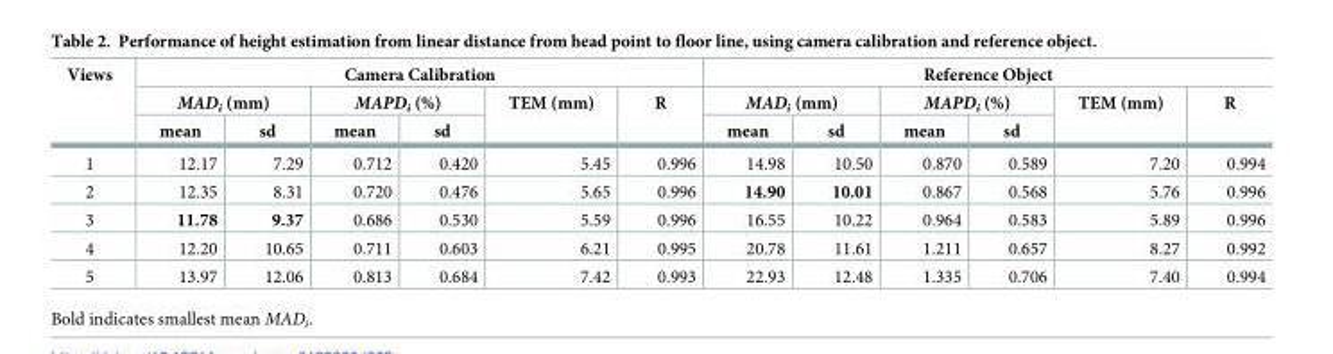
<table><thead><tr><td rowspan="3">Views</td><td colspan="6">Camera Calibration</td><td colspan="6">Reference Object</td></tr><tr><td colspan="2">MAD<sub>i</sub> (mm)</td><td colspan="2">MAPD<sub>i</sub> (%)</td><td rowspan="2">TEM (mm)</td><td rowspan="2">R</td><td colspan="2">MAD<sub>i</sub> (mm)</td><td colspan="2">MAPD<sub>i</sub> (%)</td><td rowspan="2">TEM (mm)</td><td rowspan="2">R</td></tr><tr><td>mean</td><td>sd</td><td>mean</td><td>sd</td><td>mean</td><td>sd</td><td>mean</td><td>sd</td></tr></thead><tbody><tr><td>1</td><td>12.17</td><td>7.29</td><td>0.712</td><td>0.420</td><td>5.45</td><td>0.996</td><td>14.98</td><td>10.50</td><td>0.870</td><td>0.589</td><td>7.20</td><td>0.994</td></tr><tr><td>2</td><td>12.35</td><td>8.31</td><td>0.720</td><td>0.476</td><td>5.65</td><td>0.996</td><td>14.90</td><td>10.01</td><td>0.867</td><td>0.568</td><td>5.76</td><td>0.996</td></tr><tr><td>3</td><td>11.78</td><td>9.37</td><td>0.686</td><td>0.530</td><td>5.59</td><td>0.996</td><td>16.55</td><td>10.22</td><td>0.964</td><td>0.583</td><td>5.89</td><td>0.996</td></tr><tr><td>4</td><td>12.20</td><td>10.65</td><td>0.711</td><td>0.603</td><td>6.21</td><td>0.995</td><td>20.78</td><td>11.61</td><td>1.211</td><td>0.657</td><td>8.27</td><td>0.992</td></tr><tr><td>5</td><td>13.97</td><td>12.06</td><td>0.813</td><td>0.684</td><td>7.42</td><td>0.993</td><td>22.93</td><td>12.48</td><td>1.335</td><td>0.706</td><td>7.40</td><td>0.994</td></tr></tbody></table>